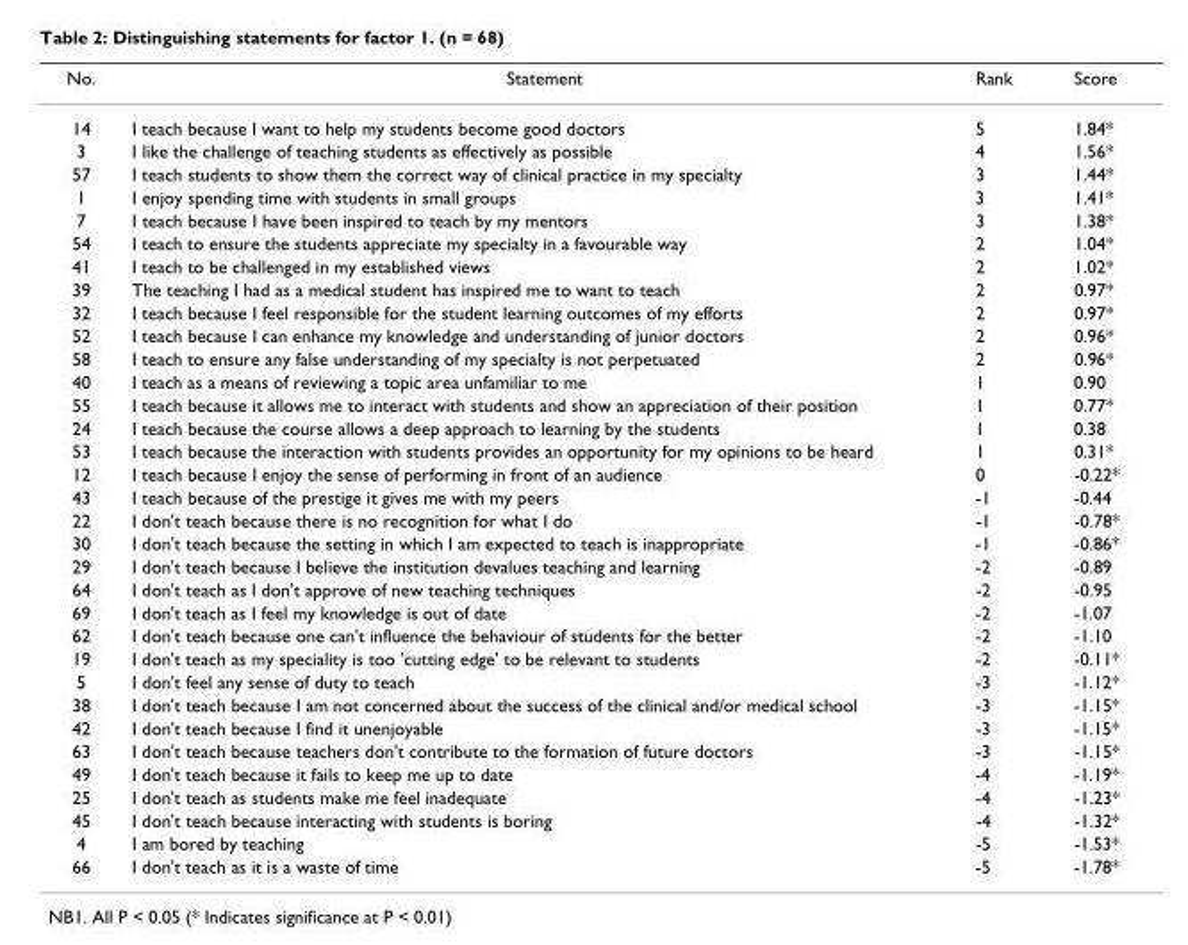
<table><thead><tr><td>No.</td><td>Statement</td><td>Rank</td><td>Score</td></tr></thead><tbody><tr><td>14</td><td>I teach because I want to help my students become good doctors</td><td>5</td><td>1.84*</td></tr><tr><td>3</td><td>I like the challenge of teaching students as effectively as possible</td><td>4</td><td>1.56*</td></tr><tr><td>57</td><td>I teach students to show them the correct way of clinical practice in my specialty</td><td>3</td><td>1.44*</td></tr><tr><td>1</td><td>I enjoy spending time with students in small groups</td><td>3</td><td>1.41*</td></tr><tr><td>7</td><td>I teach because I have been inspired to teach by my mentors</td><td>3</td><td>1.38*</td></tr><tr><td>54</td><td>I teach to ensure the students appreciate my specialty in a favourable way</td><td>2</td><td>1.04*</td></tr><tr><td>41</td><td>I teach to be challenged in my established views</td><td>2</td><td>1.02*</td></tr><tr><td>39</td><td>The teaching I had as a medical student has inspired me to want to teach</td><td>2</td><td>0.97*</td></tr><tr><td>32</td><td>I teach because I feel responsible for the student learning outcomes of my efforts</td><td>2</td><td>0.97*</td></tr><tr><td>52</td><td>I teach because I can enhance my knowledge and understanding of junior doctors</td><td>2</td><td>0.96*</td></tr><tr><td>58</td><td>I teach to ensure any false understanding of my specialty is not perpetuated</td><td>2</td><td>0.96*</td></tr><tr><td>40</td><td>I teach as a means of reviewing a topic area unfamiliar to me</td><td>1</td><td>0.90</td></tr><tr><td>55</td><td>I teach because it allows me to interact with students and show an appreciation of their position</td><td>1</td><td>0.77*</td></tr><tr><td>24</td><td>I teach because the course allows a deep approach to learning by the students</td><td>1</td><td>0.38</td></tr><tr><td>53</td><td>I teach because the interaction with students provides an opportunity for my opinions to be heard</td><td>1</td><td>0.31*</td></tr><tr><td>12</td><td>I teach because I enjoy the sense of performing in front of an audience</td><td>0</td><td>-0.22*</td></tr><tr><td>43</td><td>I teach because of the prestige it gives me with my peers</td><td>-1</td><td>-0.44</td></tr><tr><td>22</td><td>I don&#x27;t teach because there is no recognition for what I do</td><td>-1</td><td>-0.78*</td></tr><tr><td>30</td><td>I don&#x27;t teach because the setting in which I am expected to teach is inappropriate</td><td>-1</td><td>-0.86*</td></tr><tr><td>29</td><td>I don&#x27;t teach because I believe the institution devalues teaching and learning</td><td>-2</td><td>-0.89</td></tr><tr><td>64</td><td>I don&#x27;t teach as I don&#x27;t approve of new teaching techniques</td><td>-2</td><td>-0.95</td></tr><tr><td>69</td><td>I don&#x27;t teach as I feel my knowledge is out of date</td><td>-2</td><td>-1.07</td></tr><tr><td>62</td><td>I don&#x27;t teach because one can&#x27;t influence the behaviour of students for the better</td><td>-2</td><td>-1.10</td></tr><tr><td>19</td><td>I don&#x27;t teach as my speciality is too &#x27;cutting edge&#x27; to be relevant to students</td><td>-2</td><td>-0.11*</td></tr><tr><td>5</td><td>I don&#x27;t feel any sense of duty to teach</td><td>-3</td><td>-1.12*</td></tr><tr><td>38</td><td>I don&#x27;t teach because I am not concerned about the success of the clinical and/or medical school</td><td>-3</td><td>-1.15*</td></tr><tr><td>42</td><td>I don&#x27;t teach because I find it unenjoyable</td><td>-3</td><td>-1.15*</td></tr><tr><td>63</td><td>I don&#x27;t teach because teachers don&#x27;t contribute to the formation of future doctors</td><td>-3</td><td>-1.15*</td></tr><tr><td>49</td><td>I don&#x27;t teach because it fails to keep me up to date</td><td>-4</td><td>-1.19*</td></tr><tr><td>25</td><td>I don&#x27;t teach as students make me feel inadequate</td><td>-4</td><td>-1.23*</td></tr><tr><td>45</td><td>I don&#x27;t teach because interacting with students is boring</td><td>-4</td><td>-1.32*</td></tr><tr><td>4</td><td>I am bored by teaching</td><td>-5</td><td>-1.53*</td></tr><tr><td>66</td><td>I don&#x27;t teach as it is a waste of time</td><td>-5</td><td>-1.78*</td></tr></tbody></table>